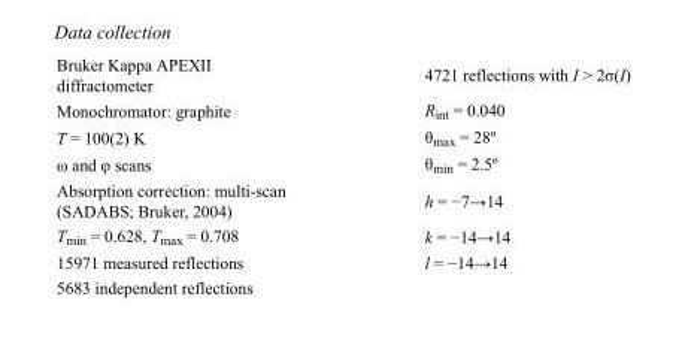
<table><tbody><tr><td>Bruker Kappa APEXII diffractometer</td><td>4721 reflections with I &gt; 2σ(I)</td></tr><tr><td>Monochromator: graphite</td><td>R<sub>int</sub> = 0.040</td></tr><tr><td>T = 100(2) K</td><td>θ<sub>max</sub> = 28º</td></tr><tr><td>ω and φ scans</td><td>θ<sub>min</sub> = 2.5º</td></tr><tr><td>Absorption correction: multi-scan (SADABS; Bruker, 2004)</td><td>h = −7→14</td></tr><tr><td>T<sub>min</sub> = 0.628, T<sub>max</sub> = 0.708</td><td>k = −14→14</td></tr><tr><td>15971 measured reflections</td><td>l = −14→14</td></tr><tr><td>5683 independent reflections</td><td></td></tr></tbody></table>